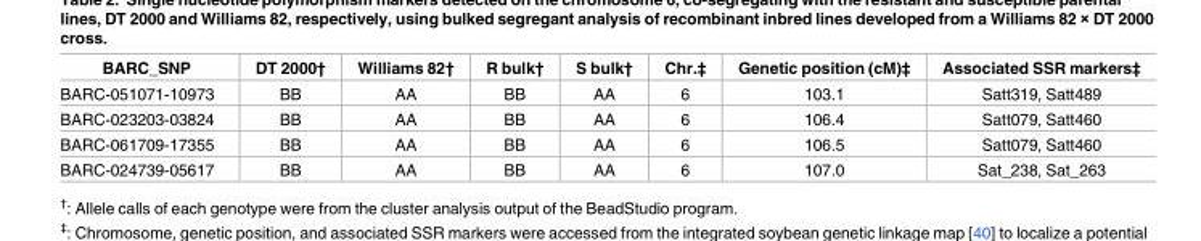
<table><thead><tr><td>BARC_SNP</td><td>DT 2000†</td><td>Williams 82†</td><td>R bulk†</td><td>S bulk†</td><td>Chr.‡</td><td>Genetic position (cM)‡</td><td>Associated SSR markers‡</td></tr></thead><tbody><tr><td>BARC-051071-10973</td><td>BB</td><td>AA</td><td>BB</td><td>AA</td><td>6</td><td>103.1</td><td>Satt319, Satt489</td></tr><tr><td>BARC-023203-03824</td><td>BB</td><td>AA</td><td>BB</td><td>AA</td><td>6</td><td>106.4</td><td>Satt079, Satt460</td></tr><tr><td>BARC-061709-17355</td><td>BB</td><td>AA</td><td>BB</td><td>AA</td><td>6</td><td>106.5</td><td>Satt079, Satt460</td></tr><tr><td>BARC-024739-05617</td><td>BB</td><td>AA</td><td>BB</td><td>AA</td><td>6</td><td>107.0</td><td>Sat_238, Sat_263</td></tr></tbody></table>